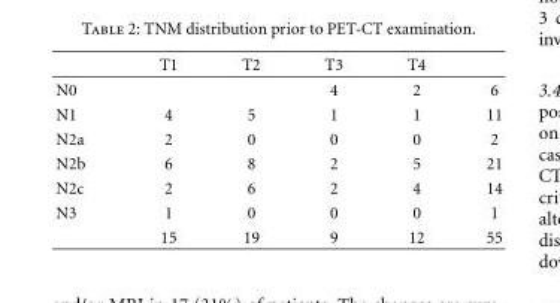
<table><thead><tr><td></td><td>T1</td><td>T2</td><td>T3</td><td>T4</td><td></td></tr></thead><tbody><tr><td>N0</td><td></td><td></td><td>4</td><td>2</td><td>6</td></tr><tr><td>N1</td><td>4</td><td>5</td><td>1</td><td>1</td><td>11</td></tr><tr><td>N2a</td><td>2</td><td>0</td><td>0</td><td>0</td><td>2</td></tr><tr><td>N2b</td><td>6</td><td>8</td><td>2</td><td>5</td><td>21</td></tr><tr><td>N2c</td><td>2</td><td>6</td><td>2</td><td>4</td><td>14</td></tr><tr><td rowspan="2">N3</td><td>1</td><td>0</td><td>0</td><td>0</td><td>1</td></tr><tr><td>15</td><td>19</td><td>9</td><td>12</td><td>55</td></tr></tbody></table>